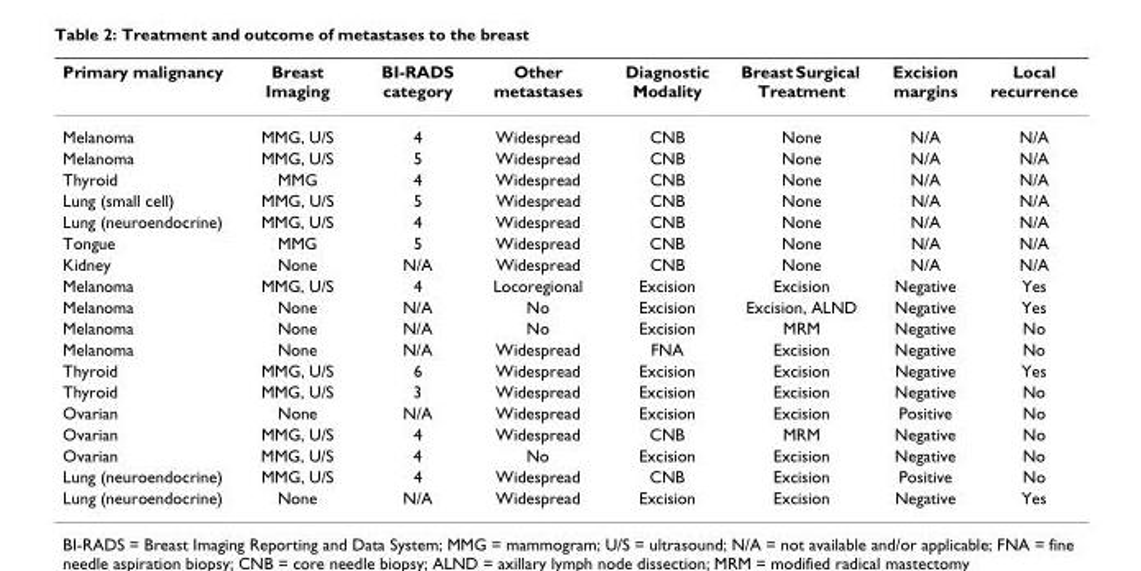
<table><thead><tr><td>Primary malignancy</td><td>Breast Imaging</td><td>BI-RADS category</td><td>Other metastases</td><td>Diagnostic Modality</td><td>Breast Surgical Treatment</td><td>Excision margins</td><td>Local recurrence</td></tr></thead><tbody><tr><td>Melanoma</td><td>MMG, U/S</td><td>4</td><td>Widespread</td><td>CNB</td><td>None</td><td>N/A</td><td>N/A</td></tr><tr><td>Melanoma</td><td>MMG, U/S</td><td>5</td><td>Widespread</td><td>CNB</td><td>None</td><td>N/A</td><td>N/A</td></tr><tr><td>Thyroid</td><td>MMG</td><td>4</td><td>Widespread</td><td>CNB</td><td>None</td><td>N/A</td><td>N/A</td></tr><tr><td>Lung (small cell)</td><td>MMG, U/S</td><td>5</td><td>Widespread</td><td>CNB</td><td>None</td><td>N/A</td><td>N/A</td></tr><tr><td>Lung (neuroendocrine)</td><td>MMG, U/S</td><td>4</td><td>Widespread</td><td>CNB</td><td>None</td><td>N/A</td><td>N/A</td></tr><tr><td>Tongue</td><td>MMG</td><td>5</td><td>Widespread</td><td>CNB</td><td>None</td><td>N/A</td><td>N/A</td></tr><tr><td>Kidney</td><td>None</td><td>N/A</td><td>Widespread</td><td>CNB</td><td>None</td><td>N/A</td><td>N/A</td></tr><tr><td>Melanoma</td><td>MMG, U/S</td><td>4</td><td>Locoregional</td><td>Excision</td><td>Excision</td><td>Negative</td><td>Yes</td></tr><tr><td>Melanoma</td><td>None</td><td>N/A</td><td>No</td><td>Excision</td><td>Excision, ALND</td><td>Negative</td><td>Yes</td></tr><tr><td>Melanoma</td><td>None</td><td>N/A</td><td>No</td><td>Excision</td><td>MRM</td><td>Negative</td><td>No</td></tr><tr><td>Melanoma</td><td>None</td><td>N/A</td><td>Widespread</td><td>FNA</td><td>Excision</td><td>Negative</td><td>No</td></tr><tr><td>Thyroid</td><td>MMG, U/S</td><td>6</td><td>Widespread</td><td>Excision</td><td>Excision</td><td>Negative</td><td>Yes</td></tr><tr><td>Thyroid</td><td>MMG, U/S</td><td>3</td><td>Widespread</td><td>Excision</td><td>Excision</td><td>Negative</td><td>No</td></tr><tr><td>Ovarian</td><td>None</td><td>N/A</td><td>Widespread</td><td>Excision</td><td>Excision</td><td>Positive</td><td>No</td></tr><tr><td>Ovarian</td><td>MMG, U/S</td><td>4</td><td>Widespread</td><td>CNB</td><td>MRM</td><td>Negative</td><td>No</td></tr><tr><td>Ovarian</td><td>MMG, U/S</td><td>4</td><td>No</td><td>Excision</td><td>Excision</td><td>Negative</td><td>No</td></tr><tr><td>Lung (neuroendocrine)</td><td>MMG, U/S</td><td>4</td><td>Widespread</td><td>CNB</td><td>Excision</td><td>Positive</td><td>No</td></tr><tr><td>Lung (neuroendocrine)</td><td>None</td><td>N/A</td><td>Widespread</td><td>Excision</td><td>Excision</td><td>Negative</td><td>Yes</td></tr></tbody></table>